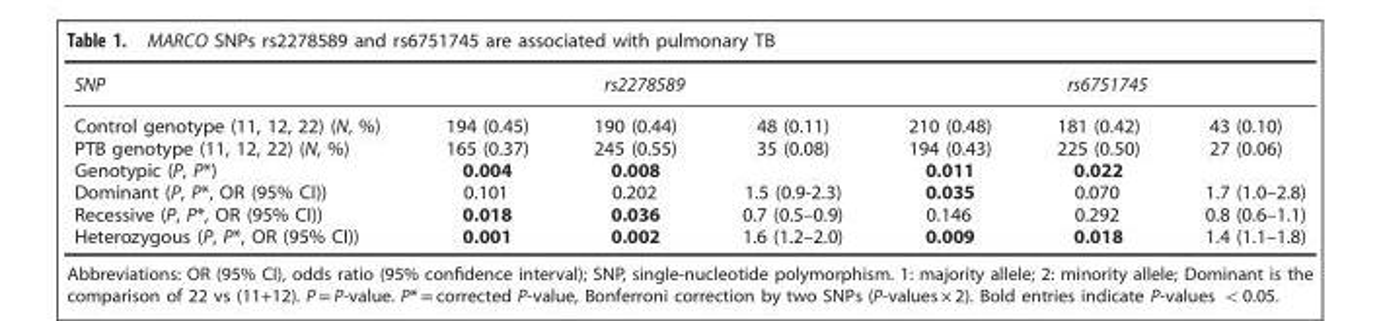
<table><thead><tr><td rowspan="2">SNP Control genotype (11, 12, 22) (N, %)</td><td colspan="3">rs2278589</td><td colspan="3">rs6751745</td></tr><tr><td>194 (0.45)</td><td>190 (0.44)</td><td>48 (0.11)</td><td>210 (0.48)</td><td>181 (0.42)</td><td>43 (0.10)</td></tr></thead><tbody><tr><td>PTB genotype (11, 12, 22) (N, %)</td><td>165 (0.37)</td><td>245 (0.55)</td><td>35 (0.08)</td><td>194 (0.43)</td><td>225 (0.50)</td><td>27 (0.06)</td></tr><tr><td>Genotypic (P, P*)</td><td>0.004</td><td>0.008</td><td></td><td>0.011</td><td>0.022</td><td></td></tr><tr><td>Dominant (P, P*, OR (95% CI))</td><td>0.101</td><td>0.202</td><td>1.5 (0.9-2.3)</td><td>0.035</td><td>0.070</td><td>1.7 (1.0–2.8)</td></tr><tr><td>Recessive (P, P*, OR (95% CI))</td><td>0.018</td><td>0.036</td><td>0.7 (0.5–0.9)</td><td>0.146</td><td>0.292</td><td>0.8 (0.6–1.1)</td></tr><tr><td>Heterozygous (P, P*, OR (95% CI))</td><td>0.001</td><td>0.002</td><td>1.6 (1.2–2.0)</td><td>0.009</td><td>0.018</td><td>1.4 (1.1–1.8)</td></tr></tbody></table>